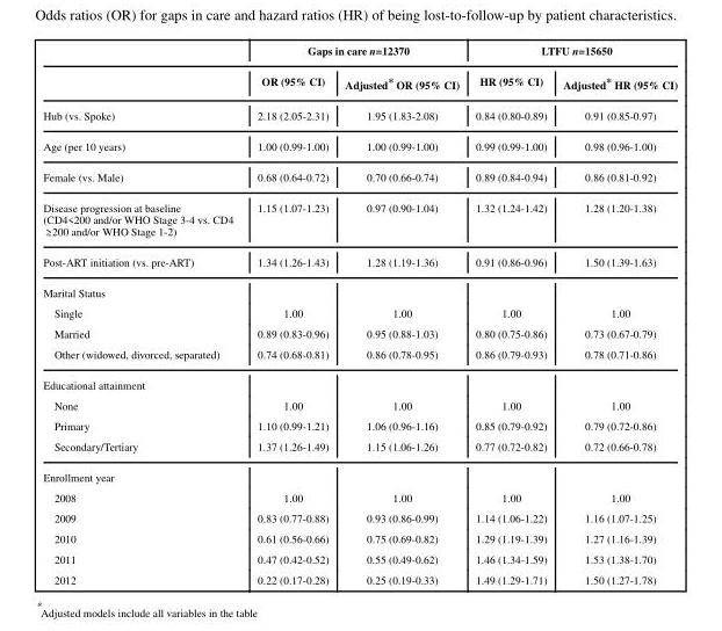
<table><thead><tr><td rowspan="2"></td><td colspan="2">Gaps in care n=12370</td><td colspan="2">LTFU n=15650</td></tr><tr><td>OR (95% CI)</td><td>Adjusted* OR (95% CI)</td><td>HR (95% CI)</td><td>Adjusted* HR (95% CI)</td></tr></thead><tbody><tr><td>Hub (vs. Spoke)</td><td>2.18 (2.05-2.31)</td><td>1.95 (1.83-2.08)</td><td>0.84 (0.80-0.89)</td><td>0.91 (0.85-0.97)</td></tr><tr><td>Age (per 10 years)</td><td>1.00 (0.99-1.00)</td><td>1.00 (0.99-1.00)</td><td>0.99 (0.99-1.00)</td><td>0.98 (0.96-1.00)</td></tr><tr><td>Female (vs. Male)</td><td>0.68 (0.64-0.72)</td><td>0.70 (0.66-0.74)</td><td>0.89 (0.84-0.94)</td><td>0.86 (0.81-0.92)</td></tr><tr><td>Disease progression at baseline (CD4&lt;200 and/or WHO Stage 3-4 vs. CD4 ≥ 200 and/or WHO Stage 1-2)</td><td>1.15 (1.07-1.23)</td><td>0.97 (0.90-1.04)</td><td>1.32 (1.24-1.42)</td><td>1.28 (1.20-1.38)</td></tr><tr><td>Post-ART initiation (vs. pre-ART)</td><td>1.34 (1.26-1.43)</td><td>1.28 (1.19-1.36)</td><td>0.91 (0.86-0.96)</td><td>1.50 (1.39-1.63)</td></tr><tr><td colspan="5">Marital Status</td></tr><tr><td>Single</td><td>1.00</td><td>1.00</td><td>1.00</td><td>1.00</td></tr><tr><td>Married</td><td>0.89 (0.83-0.96)</td><td>0.95 (0.88-1.03)</td><td>0.80 (0.75-0.86)</td><td>0.73 (0.67-0.79)</td></tr><tr><td>Other (widowed, divorced, separated)</td><td>0.74 (0.68-0.81)</td><td>0.86 (0.78-0.95)</td><td>0.86 (0.79-0.93)</td><td>0.78 (0.71-0.86)</td></tr><tr><td colspan="5">Educational attainment</td></tr><tr><td>None</td><td>1.00</td><td>1.00</td><td>1.00</td><td>1.00</td></tr><tr><td>Primary</td><td>1.10 (0.99-1.21)</td><td>1.06 (0.96-1.16)</td><td>0.85 (0.79-0.92)</td><td>0.79 (0.72-0.86)</td></tr><tr><td>Secondary/Tertiary</td><td>1.37 (1.26-1.49)</td><td>1.15 (1.06-1.26)</td><td>0.77 (0.72-0.82)</td><td>0.72 (0.66-0.78)</td></tr><tr><td colspan="5">Enrollment year</td></tr><tr><td>2008</td><td>1.00</td><td>1.00</td><td>1.00</td><td>1.00</td></tr><tr><td>2009</td><td>0.83 (0.77-0.88)</td><td>0.93 (0.86-0.99)</td><td>1.14 (1.06-1.22)</td><td>1.16 (1.07-1.25)</td></tr><tr><td>2010</td><td>0.61 (0.56-0.66)</td><td>0.75 (0.69-0.82)</td><td>1.29 (1.19-1.39)</td><td>1.27 (1.16-1.39)</td></tr><tr><td>2011</td><td>0.47 (0.42-0.52)</td><td>0.55 (0.49-0.62)</td><td>1.46 (1.34-1.59)</td><td>1.53 (1.38-1.70)</td></tr><tr><td>2012</td><td>0.22 (0.17-0.28)</td><td>0.25 (0.19-0.33)</td><td>1.49 (1.29-1.71)</td><td>1.50 (1.27-1.78)</td></tr></tbody></table>